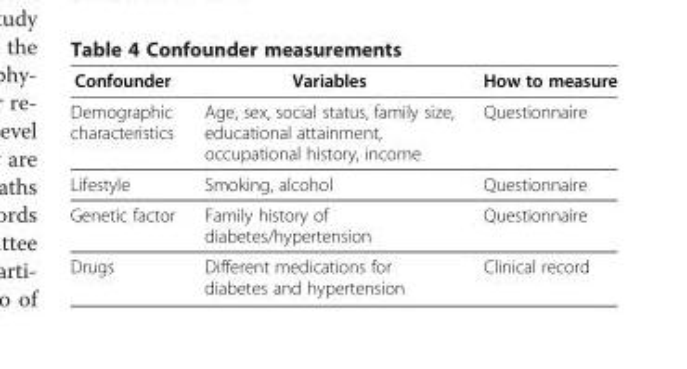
<table><thead><tr><td>Confounder</td><td>Variables</td><td>How to measure</td></tr></thead><tbody><tr><td>Demographic characteristics</td><td>Age, sex, social status, family size, educational attainment, occupational history, income</td><td>Questionnaire</td></tr><tr><td>Lifestyle</td><td>Smoking, alcohol</td><td>Questionnaire</td></tr><tr><td>Genetic factor</td><td>Family history of diabetes/hypertension</td><td>Questionnaire</td></tr><tr><td>Drugs</td><td>Different medications for diabetes and hypertension</td><td>Clinical record</td></tr></tbody></table>